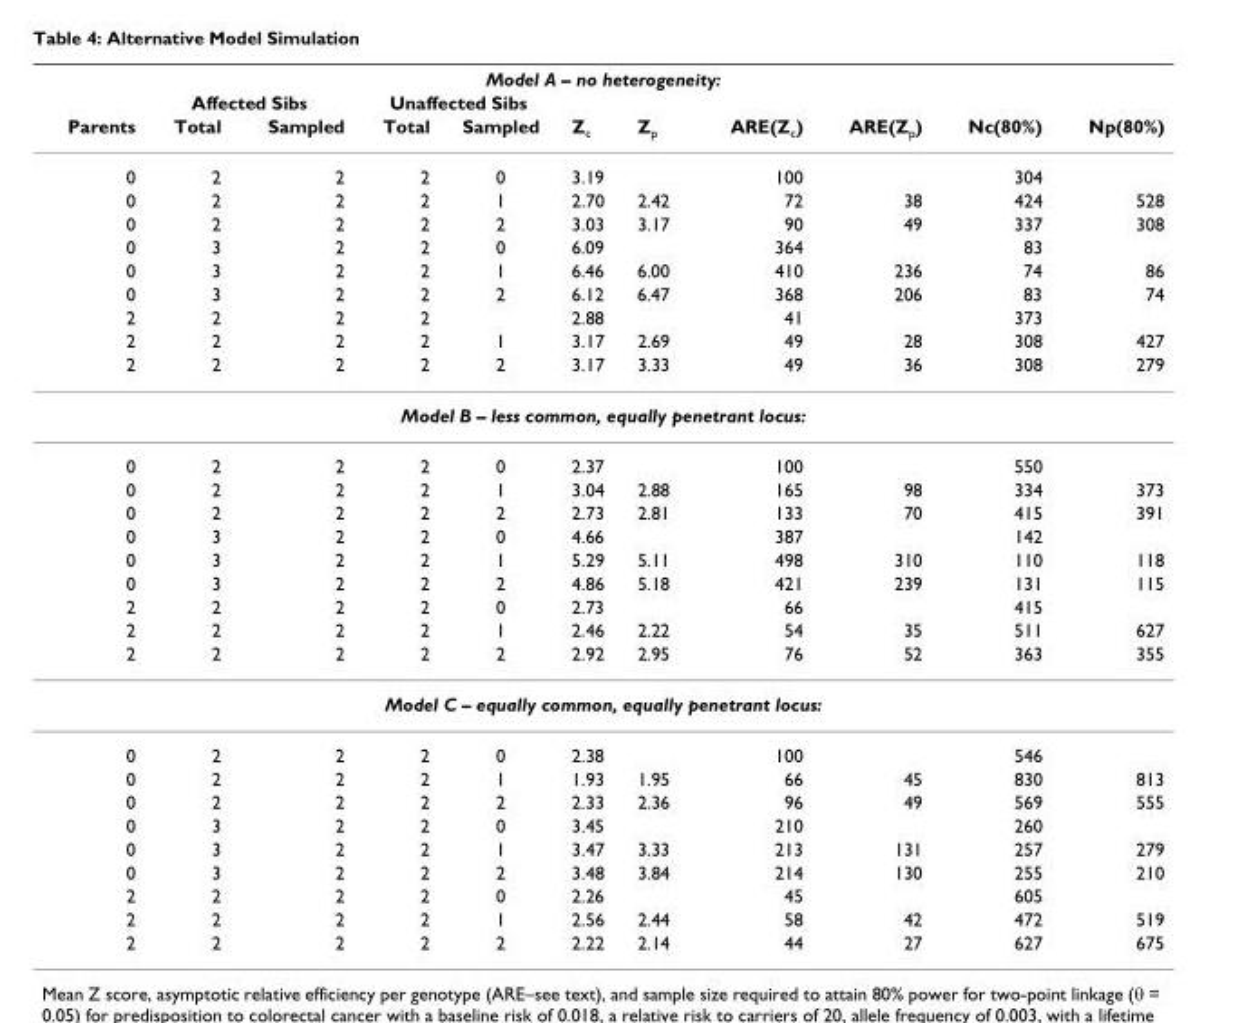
<table><thead><tr><td colspan="11">Model A – no heterogeneity:</td></tr><tr><td rowspan="2">Parents</td><td colspan="2">Affected Sibs</td><td colspan="2">Unaffected Sibs</td><td rowspan="2">Z<sub>c</sub></td><td rowspan="2">Z<sub>p</sub></td><td rowspan="2">ARE(Z<sub>c</sub>)</td><td rowspan="2">ARE(Z<sub>p</sub>)</td><td rowspan="2">Nc(80%)</td><td rowspan="2">Np(80%)</td></tr><tr><td>Total</td><td>Sampled</td><td>Total</td><td>Sampled</td></tr></thead><tbody><tr><td>0</td><td>2</td><td>2</td><td>2</td><td>0</td><td>3.19</td><td></td><td>100</td><td></td><td>304</td><td></td></tr><tr><td>0</td><td>2</td><td>2</td><td>2</td><td>1</td><td>2.70</td><td>2.42</td><td>72</td><td>38</td><td>424</td><td>528</td></tr><tr><td>0</td><td>2</td><td>2</td><td>2</td><td>2</td><td>3.03</td><td>3.17</td><td>90</td><td>49</td><td>337</td><td>308</td></tr><tr><td>0</td><td>3</td><td>2</td><td>2</td><td>0</td><td>6.09</td><td></td><td>364</td><td></td><td>83</td><td></td></tr><tr><td>0</td><td>3</td><td>2</td><td>2</td><td>1</td><td>6.46</td><td>6.00</td><td>410</td><td>236</td><td>74</td><td>86</td></tr><tr><td>0</td><td>3</td><td>2</td><td>2</td><td>2</td><td>6.12</td><td>6.47</td><td>368</td><td>206</td><td>83</td><td>74</td></tr><tr><td>2</td><td>2</td><td>2</td><td>2</td><td></td><td>2.88</td><td></td><td>41</td><td></td><td>373</td><td></td></tr><tr><td>2</td><td>2</td><td>2</td><td>2</td><td>1</td><td>3.17</td><td>2.69</td><td>49</td><td>28</td><td>308</td><td>427</td></tr><tr><td>2</td><td>2</td><td>2</td><td>2</td><td>2</td><td>3.17</td><td>3.33</td><td>49</td><td>36</td><td>308</td><td>279</td></tr><tr><td colspan="11">Model B – less common, equally penetrant locus:</td></tr><tr><td>0</td><td>2</td><td>2</td><td>2</td><td>0</td><td>2.37</td><td></td><td>100</td><td></td><td>550</td><td></td></tr><tr><td>0</td><td>2</td><td>2</td><td>2</td><td>1</td><td>3.04</td><td>2.88</td><td>165</td><td>98</td><td>334</td><td>373</td></tr><tr><td>0</td><td>2</td><td>2</td><td>2</td><td>2</td><td>2.73</td><td>2.81</td><td>133</td><td>70</td><td>415</td><td>391</td></tr><tr><td>0</td><td>3</td><td>2</td><td>2</td><td>0</td><td>4.66</td><td></td><td>387</td><td></td><td>142</td><td></td></tr><tr><td>0</td><td>3</td><td>2</td><td>2</td><td>1</td><td>5.29</td><td>5.11</td><td>498</td><td>310</td><td>110</td><td>118</td></tr><tr><td>0</td><td>3</td><td>2</td><td>2</td><td>2</td><td>4.86</td><td>5.18</td><td>421</td><td>239</td><td>131</td><td>115</td></tr><tr><td>2</td><td>2</td><td>2</td><td>2</td><td>0</td><td>2.73</td><td></td><td>66</td><td></td><td>415</td><td></td></tr><tr><td>2</td><td>2</td><td>2</td><td>2</td><td>1</td><td>2.46</td><td>2.22</td><td>54</td><td>35</td><td>511</td><td>627</td></tr><tr><td>2</td><td>2</td><td>2</td><td>2</td><td>2</td><td>2.92</td><td>2.95</td><td>76</td><td>52</td><td>363</td><td>355</td></tr><tr><td colspan="11">Model C – equally common, equally penetrant locus:</td></tr><tr><td>0</td><td>2</td><td>2</td><td>2</td><td>0</td><td>2.38</td><td></td><td>100</td><td></td><td>546</td><td></td></tr><tr><td>0</td><td>2</td><td>2</td><td>2</td><td>1</td><td>1.93</td><td>1.95</td><td>66</td><td>45</td><td>830</td><td>813</td></tr><tr><td>0</td><td>2</td><td>2</td><td>2</td><td>2</td><td>2.33</td><td>2.36</td><td>96</td><td>49</td><td>569</td><td>555</td></tr><tr><td>0</td><td>3</td><td>2</td><td>2</td><td>0</td><td>3.45</td><td></td><td>210</td><td></td><td>260</td><td></td></tr><tr><td>0</td><td>3</td><td>2</td><td>2</td><td>1</td><td>3.47</td><td>3.33</td><td>213</td><td>131</td><td>257</td><td>279</td></tr><tr><td>0</td><td>3</td><td>2</td><td>2</td><td>2</td><td>3.48</td><td>3.84</td><td>214</td><td>130</td><td>255</td><td>210</td></tr><tr><td>2</td><td>2</td><td>2</td><td>2</td><td>0</td><td>2.26</td><td></td><td>45</td><td></td><td>605</td><td></td></tr><tr><td>2</td><td>2</td><td>2</td><td>2</td><td>1</td><td>2.56</td><td>2.44</td><td>58</td><td>42</td><td>472</td><td>519</td></tr><tr><td>2</td><td>2</td><td>2</td><td>2</td><td>2</td><td>2.22</td><td>2.14</td><td>44</td><td>27</td><td>627</td><td>675</td></tr></tbody></table>